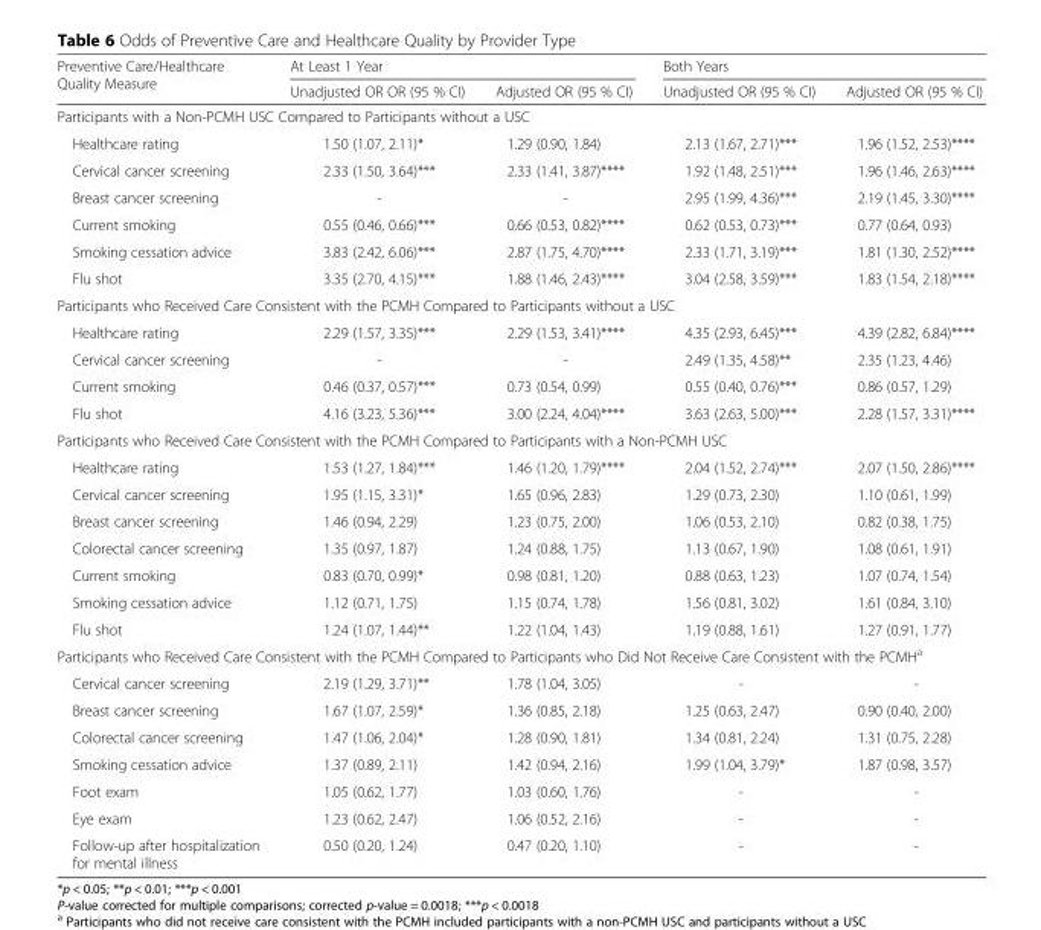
<table><thead><tr><td rowspan="2">Preventive Care/Healthcare Quality Measure</td><td colspan="2">At Least 1 Year</td><td colspan="2">Both Years</td></tr><tr><td>Unadjusted OR OR (95 % CI)</td><td>Adjusted OR (95 % CI)</td><td>Unadjusted OR (95 % CI)</td><td>Adjusted OR (95 % CI)</td></tr></thead><tbody><tr><td colspan="5">Participants with a Non-PCMH USC Compared to Participants without a USC</td></tr><tr><td>Healthcare rating</td><td>1.50 (1.07, 2.11)*</td><td>1.29 (0.90, 1.84)</td><td>2.13 (1.67, 2.71)***</td><td>1.96 (1.52, 2.53)****</td></tr><tr><td>Cervical cancer screening</td><td>2.33 (1.50, 3.64)***</td><td>2.33 (1.41, 3.87)****</td><td>1.92 (1.48, 2.51)***</td><td>1.96 (1.46, 2.63)****</td></tr><tr><td>Breast cancer screening</td><td>-</td><td>-</td><td>2.95 (1.99, 4.36)***</td><td>2.19 (1.45, 3.30)****</td></tr><tr><td>Current smoking</td><td>0.55 (0.46, 0.66)***</td><td>0.66 (0.53, 0.82)****</td><td>0.62 (0.53, 0.73)***</td><td>0.77 (0.64, 0.93)</td></tr><tr><td>Smoking cessation advice</td><td>3.83 (2.42, 6.06)***</td><td>2.87 (1.75, 4.70)****</td><td>2.33 (1.71, 3.19)***</td><td>1.81 (1.30, 2.52)****</td></tr><tr><td>Flu shot</td><td>3.35 (2.70, 4.15)***</td><td>1.88 (1.46, 2.43)****</td><td>3.04 (2.58, 3.59)***</td><td>1.83 (1.54, 2.18)****</td></tr><tr><td colspan="5">Participants who Received Care Consistent with the PCMH Compared to Participants without a USC</td></tr><tr><td>Healthcare rating</td><td>2.29 (1.57, 3.35)***</td><td>2.29 (1.53, 3.41)****</td><td>4.35 (2.93, 6.45)***</td><td>4.39 (2.82, 6.84)****</td></tr><tr><td>Cervical cancer screening</td><td>-</td><td>-</td><td>2.49 (1.35, 4.58)**</td><td>2.35 (1.23, 4.46)</td></tr><tr><td>Current smoking</td><td>0.46 (0.37, 0.57)***</td><td>0.73 (0.54, 0.99)</td><td>0.55 (0.40, 0.76)***</td><td>0.86 (0.57, 1.29)</td></tr><tr><td>Flu shot</td><td>4.16 (3.23, 5.36)***</td><td>3.00 (2.24, 4.04)****</td><td>3.63 (2.63, 5.00)***</td><td>2.28 (1.57, 3.31)****</td></tr><tr><td colspan="5">Participants who Received Care Consistent with the PCMH Compared to Participants with a Non-PCMH USC</td></tr><tr><td>Healthcare rating</td><td>1.53 (1.27, 1.84)***</td><td>1.46 (1.20, 1.79)****</td><td>2.04 (1.52, 2.74)***</td><td>2.07 (1.50, 2.86)****</td></tr><tr><td>Cervical cancer screening</td><td>1.95 (1.15, 3.31)*</td><td>1.65 (0.96, 2.83)</td><td>1.29 (0.73, 2.30)</td><td>1.10 (0.61, 1.99)</td></tr><tr><td>Breast cancer screening</td><td>1.46 (0.94, 2.29)</td><td>1.23 (0.75, 2.00)</td><td>1.06 (0.53, 2.10)</td><td>0.82 (0.38, 1.75)</td></tr><tr><td>Colorectal cancer screening</td><td>1.35 (0.97, 1.87)</td><td>1.24 (0.88, 1.75)</td><td>1.13 (0.67, 1.90)</td><td>1.08 (0.61, 1.91)</td></tr><tr><td>Current smoking</td><td>0.83 (0.70, 0.99)*</td><td>0.98 (0.81, 1.20)</td><td>0.88 (0.63, 1.23)</td><td>1.07 (0.74, 1.54)</td></tr><tr><td>Smoking cessation advice</td><td>1.12 (0.71, 1.75)</td><td>1.15 (0.74, 1.78)</td><td>1.56 (0.81, 3.02)</td><td>1.61 (0.84, 3.10)</td></tr><tr><td>Flu shot</td><td>1.24 (1.07, 1.44)**</td><td>1.22 (1.04, 1.43)</td><td>1.19 (0.88, 1.61)</td><td>1.27 (0.91, 1.77)</td></tr><tr><td colspan="5">Participants who Received Care Consistent with the PCMH Compared to Participants who Did Not Receive Care Consistent with the PCMH<sup>a</sup></td></tr><tr><td>Cervical cancer screening</td><td>2.19 (1.29, 3.71)**</td><td>1.78 (1.04, 3.05)</td><td>-</td><td>-</td></tr><tr><td>Breast cancer screening</td><td>1.67 (1.07, 2.59)*</td><td>1.36 (0.85, 2.18)</td><td>1.25 (0.63, 2.47)</td><td>0.90 (0.40, 2.00)</td></tr><tr><td>Colorectal cancer screening</td><td>1.47 (1.06, 2.04)*</td><td>1.28 (0.90, 1.81)</td><td>1.34 (0.81, 2.24)</td><td>1.31 (0.75, 2.28)</td></tr><tr><td>Smoking cessation advice</td><td>1.37 (0.89, 2.11)</td><td>1.42 (0.94, 2.16)</td><td>1.99 (1.04, 3.79)*</td><td>1.87 (0.98, 3.57)</td></tr><tr><td>Foot exam</td><td>1.05 (0.62, 1.77)</td><td>1.03 (0.60, 1.76)</td><td>-</td><td>-</td></tr><tr><td>Eye exam</td><td>1.23 (0.62, 2.47)</td><td>1.06 (0.52, 2.16)</td><td>-</td><td>-</td></tr><tr><td>Follow-up after hospitalization for mental illness</td><td>0.50 (0.20, 1.24)</td><td>0.47 (0.20, 1.10)</td><td>-</td><td>-</td></tr></tbody></table>